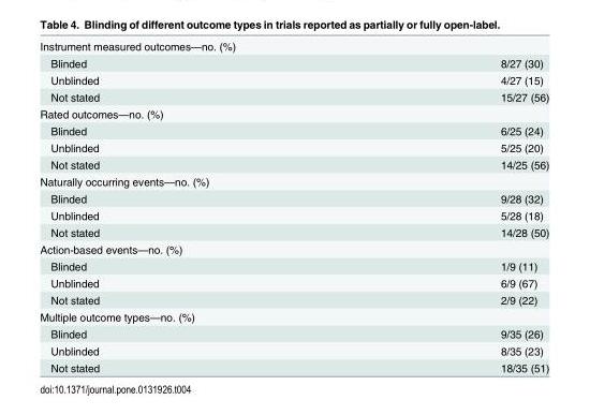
<table><tbody><tr><td colspan="2">Instrument measured outcomes—no. (%)</td></tr><tr><td>Blinded</td><td>8/27 (30)</td></tr><tr><td>Unblinded</td><td>4/27 (15)</td></tr><tr><td>Not stated</td><td>15/27 (56)</td></tr><tr><td colspan="2">Rated outcomes—no. (%)</td></tr><tr><td>Blinded</td><td>6/25 (24)</td></tr><tr><td>Unblinded</td><td>5/25 (20)</td></tr><tr><td>Not stated</td><td>14/25 (56)</td></tr><tr><td colspan="2">Naturally occurring events—no. (%)</td></tr><tr><td>Blinded</td><td>9/28 (32)</td></tr><tr><td>Unblinded</td><td>5/28 (18)</td></tr><tr><td>Not stated</td><td>14/28 (50)</td></tr><tr><td colspan="2">Action-based events—no. (%)</td></tr><tr><td>Blinded</td><td>1/9 (11)</td></tr><tr><td>Unblinded</td><td>6/9 (67)</td></tr><tr><td>Not stated</td><td>2/9 (22)</td></tr><tr><td colspan="2">Multiple outcome types—no. (%)</td></tr><tr><td>Blinded</td><td>9/35 (26)</td></tr><tr><td>Unblinded</td><td>8/35 (23)</td></tr><tr><td>Not stated</td><td>18/35 (51)</td></tr></tbody></table>